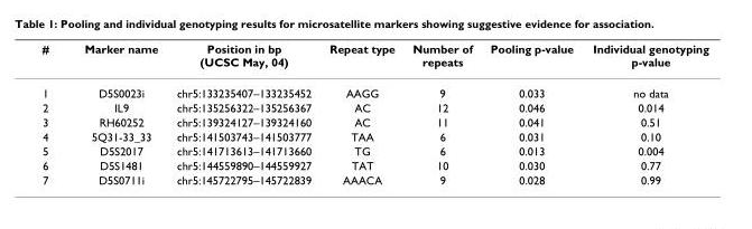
<table><thead><tr><td>#</td><td>Marker name</td><td>Position in bp (UCSC May, 04)</td><td>Repeat type</td><td>Number of repeats</td><td>Pooling p-value</td><td>Individual genotyping p-value</td></tr></thead><tbody><tr><td>1</td><td>D5S0023i</td><td>chr5:133235407–133235452</td><td>AAGG</td><td>9</td><td>0.033</td><td>no data</td></tr><tr><td>2</td><td>IL9</td><td>chr5:135256322–135256367</td><td>AC</td><td>12</td><td>0.046</td><td>0.014</td></tr><tr><td>3</td><td>RH60252</td><td>chr5:139324127–139324160</td><td>AC</td><td>11</td><td>0.041</td><td>0.51</td></tr><tr><td>4</td><td>5Q31-33_33</td><td>chr5:141503743–141503777</td><td>TAA</td><td>6</td><td>0.031</td><td>0.10</td></tr><tr><td>5</td><td>D5S2017</td><td>chr5:141713613–141713660</td><td>TG</td><td>6</td><td>0.013</td><td>0.004</td></tr><tr><td>6</td><td>D5S1481</td><td>chr5:144559890–144559927</td><td>TAT</td><td>10</td><td>0.030</td><td>0.77</td></tr><tr><td>7</td><td>D5S0711i</td><td>chr5:145722795–145722839</td><td>AAACA</td><td>9</td><td>0.028</td><td>0.99</td></tr></tbody></table>